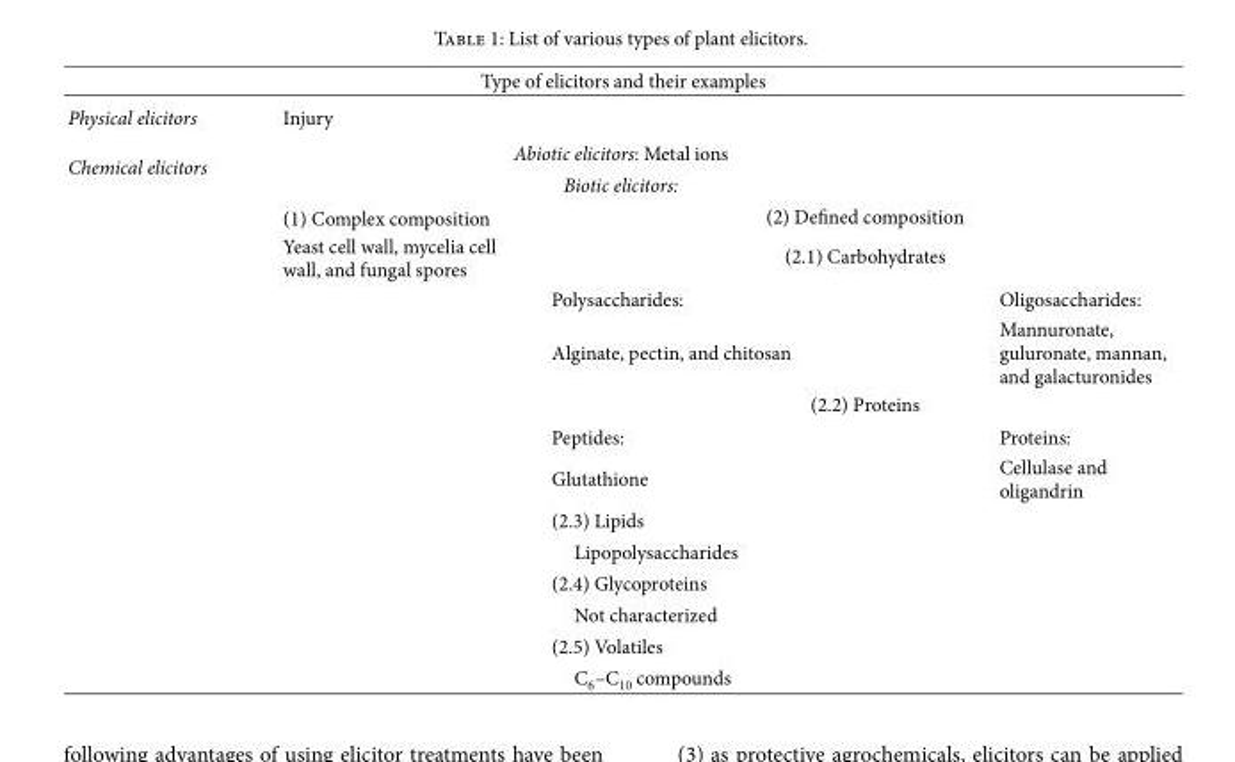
<table><thead><tr><td colspan="4">Type of elicitors and their examples</td></tr><tr><td>Physical elicitors</td><td>Injury</td><td></td><td></td></tr></thead><tbody><tr><td rowspan="15">Chemical elicitors</td><td colspan="2">Abiotic elicitors: Metal ions</td><td></td></tr><tr><td colspan="2">Biotic elicitors:</td><td></td></tr><tr><td>(1) Complex composition</td><td colspan="2">(2) �e�ned composition</td></tr><tr><td>Yeast cell wall, mycelia cell wall, and fungal spores</td><td colspan="2">(2.1) Carbohydrates</td></tr><tr><td></td><td>Polysaccharides:</td><td>Oligosaccharides:</td></tr><tr><td></td><td>Alginate, pectin, and chitosan</td><td>Mannuronate, guluronate, mannan, and galacturonides</td></tr><tr><td></td><td colspan="2">(2.2) Proteins</td></tr><tr><td></td><td>Peptides:</td><td>Proteins:</td></tr><tr><td></td><td>Glutathione</td><td>Cellulase and oligandrin</td></tr><tr><td></td><td>(2.3) Lipids</td><td></td></tr><tr><td></td><td>Lipopolysaccharides</td><td></td></tr><tr><td></td><td>(2.4) Glycoproteins</td><td></td></tr><tr><td></td><td>Not characterized</td><td></td></tr><tr><td></td><td>(2.5) Volatiles</td><td></td></tr><tr><td></td><td>C<sub>6</sub>–C<sub>10</sub> compounds</td><td></td></tr></tbody></table>